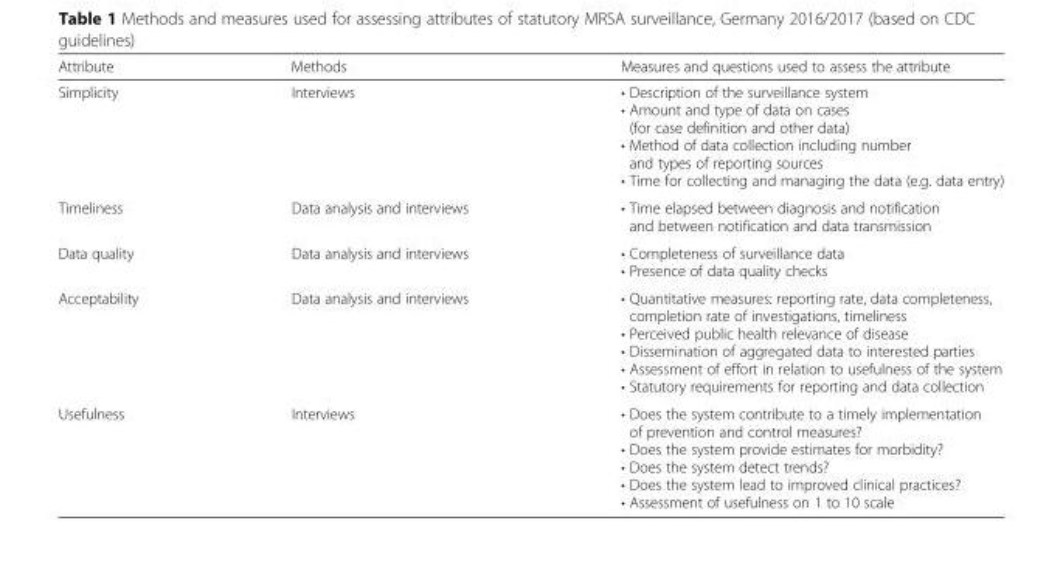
<table><thead><tr><td>Attribute</td><td>Methods</td><td>Measures and questions used to assess the attribute</td></tr></thead><tbody><tr><td>Simplicity</td><td>Interviews</td><td>• Description of the surveillance system • Amount and type of data on cases (for case definition and other data) • Method of data collection including number and types of reporting sources • Time for collecting and managing the data (e.g. data entry)</td></tr><tr><td>Timeliness</td><td>Data analysis and interviews</td><td>• Time elapsed between diagnosis and notification and between notification and data transmission</td></tr><tr><td>Data quality</td><td>Data analysis and interviews</td><td>• Completeness of surveillance data • Presence of data quality checks</td></tr><tr><td>Acceptability</td><td>Data analysis and interviews</td><td>• Quantitative measures: reporting rate, data completeness, completion rate of investigations, timeliness • Perceived public health relevance of disease • Dissemination of aggregated data to interested parties • Assessment of effort in relation to usefulness of the system • Statutory requirements for reporting and data collection</td></tr><tr><td>Usefulness</td><td>Interviews</td><td>• Does the system contribute to a timely implementation of prevention and control measures? • Does the system provide estimates for morbidity? • Does the system detect trends? • Does the system lead to improved clinical practices? • Assessment of usefulness on 1 to 10 scale</td></tr></tbody></table>